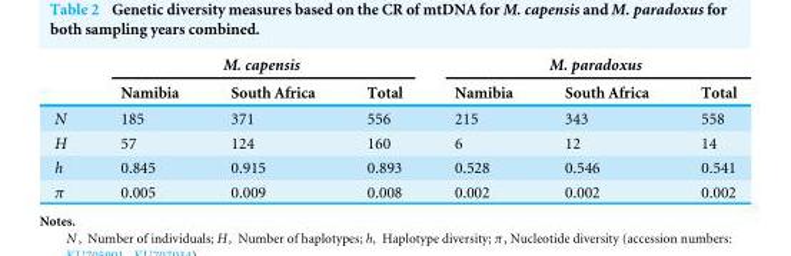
<table><thead><tr><td rowspan="2"></td><td colspan="3">M. capensis</td><td colspan="3">M. paradoxus</td></tr><tr><td>Namibia</td><td>South Africa</td><td>Total</td><td>Namibia</td><td>South Africa</td><td>Total</td></tr></thead><tbody><tr><td>N</td><td>185</td><td>371</td><td>556</td><td>215</td><td>343</td><td>558</td></tr><tr><td>H</td><td>57</td><td>124</td><td>160</td><td>6</td><td>12</td><td>14</td></tr><tr><td>h</td><td>0.845</td><td>0.915</td><td>0.893</td><td>0.528</td><td>0.546</td><td>0.541</td></tr><tr><td>π</td><td>0.005</td><td>0.009</td><td>0.008</td><td>0.002</td><td>0.002</td><td>0.002</td></tr></tbody></table>